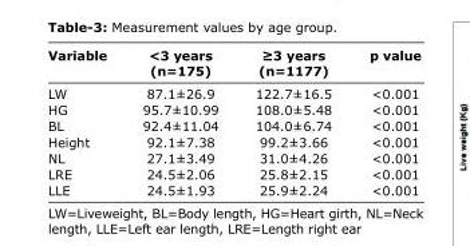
<table><thead><tr><td>Variable</td><td>&lt;3 years (n=175)</td><td>≥3 years (n=1177)</td><td>p value</td></tr></thead><tbody><tr><td>LW</td><td>87.1±26.9</td><td>122.7±16.5</td><td>&lt;0.001</td></tr><tr><td>HG</td><td>95.7±10.99</td><td>108.0±5.48</td><td>&lt;0.001</td></tr><tr><td>BL</td><td>92.4±11.04</td><td>104.0±6.74</td><td>&lt;0.001</td></tr><tr><td>Height</td><td>92.1±7.38</td><td>99.2±3.66</td><td>&lt;0.001</td></tr><tr><td>NL</td><td>27.1±3.49</td><td>31.0±4.26</td><td>&lt;0.001</td></tr><tr><td>LRE</td><td>24.5±2.06</td><td>25.8±2.15</td><td>&lt;0.001</td></tr><tr><td>LLE</td><td>24.5±1.93</td><td>25.9±2.24</td><td>&lt;0.001</td></tr></tbody></table>